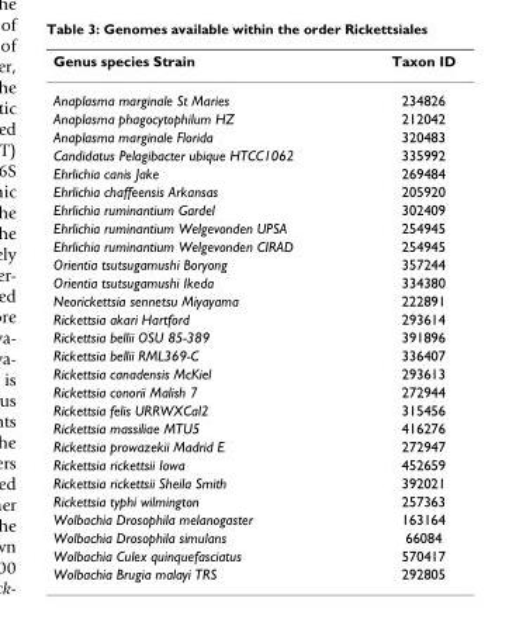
<table><thead><tr><td>Genus species Strain</td><td>Taxon ID</td></tr></thead><tbody><tr><td>Anaplasma marginale St Maries</td><td>234826</td></tr><tr><td>Anaplasma phagocytophilum HZ</td><td>212042</td></tr><tr><td>Anaplasma marginale Florida</td><td>320483</td></tr><tr><td>Candidatus Pelagibacter ubique HTCC1062</td><td>335992</td></tr><tr><td>Ehrlichia canis Jake</td><td>269484</td></tr><tr><td>Ehrlichia chaffeensis Arkansas</td><td>205920</td></tr><tr><td>Ehrlichia ruminantium Gardel</td><td>302409</td></tr><tr><td>Ehrlichia ruminantium Welgevonden UPSA</td><td>254945</td></tr><tr><td>Ehrlichia ruminantium Welgevonden CIRAD</td><td>254945</td></tr><tr><td>Orientia tsutsugamushi Boryong</td><td>357244</td></tr><tr><td>Orientia tsutsugamushi Ikeda</td><td>334380</td></tr><tr><td>Neorickettsia sennetsu Miyayama</td><td>222891</td></tr><tr><td>Rickettsia akari Hartford</td><td>293614</td></tr><tr><td>Rickettsia bellii OSU 85-389</td><td>391896</td></tr><tr><td>Rickettsia bellii RML369-C</td><td>336407</td></tr><tr><td>Rickettsia canadensis McKiel</td><td>293613</td></tr><tr><td>Rickettsia conorii Malish 7</td><td>272944</td></tr><tr><td>Rickettsia felis URRWXCal2</td><td>315456</td></tr><tr><td>Rickettsia massiliae MTU5</td><td>416276</td></tr><tr><td>Rickettsia prowazekii Madrid E</td><td>272947</td></tr><tr><td>Rickettsia rickettsii Iowa</td><td>452659</td></tr><tr><td>Rickettsia rickettsii Sheila Smith</td><td>392021</td></tr><tr><td>Rickettsia typhi wilmington</td><td>257363</td></tr><tr><td>Wolbachia Drosophila melanogaster</td><td>163164</td></tr><tr><td>Wolbachia Drosophila simulans</td><td>66084</td></tr><tr><td>Wolbachia Culex quinquefasciatus</td><td>570417</td></tr><tr><td>Wolbachia Brugia malayi TRS</td><td>292805</td></tr></tbody></table>